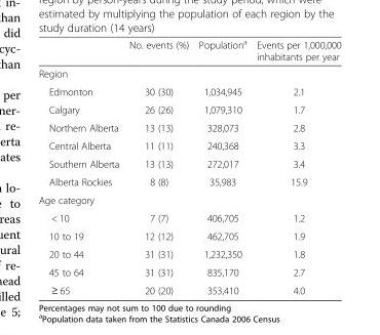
<table><thead><tr><td></td><td>No. events (%)</td><td>Population<sup>a</sup></td><td>Events per 1,000,000 inhabitants per year</td></tr></thead><tbody><tr><td colspan="4">Region</td></tr><tr><td>Edmonton</td><td>30 (30)</td><td>1,034,945</td><td>2.1</td></tr><tr><td>Calgary</td><td>26 (26)</td><td>1,079,310</td><td>1.7</td></tr><tr><td>Northern Alberta</td><td>13 (13)</td><td>328,073</td><td>2.8</td></tr><tr><td>Central Alberta</td><td>11 (11)</td><td>240,368</td><td>3.3</td></tr><tr><td>Southern Alberta</td><td>13 (13)</td><td>272,017</td><td>3.4</td></tr><tr><td>Alberta Rockies</td><td>8 (8)</td><td>35,983</td><td>15.9</td></tr><tr><td colspan="4">Age category</td></tr><tr><td>&lt; 10</td><td>7 (7)</td><td>406,705</td><td>1.2</td></tr><tr><td>10 to 19</td><td>12 (12)</td><td>462,705</td><td>1.9</td></tr><tr><td>20 to 44</td><td>31 (31)</td><td>1,232,350</td><td>1.8</td></tr><tr><td>45 to 64</td><td>31 (31)</td><td>835,170</td><td>2.7</td></tr><tr><td>≥ 65</td><td>20 (20)</td><td>353,410</td><td>4.0</td></tr></tbody></table>